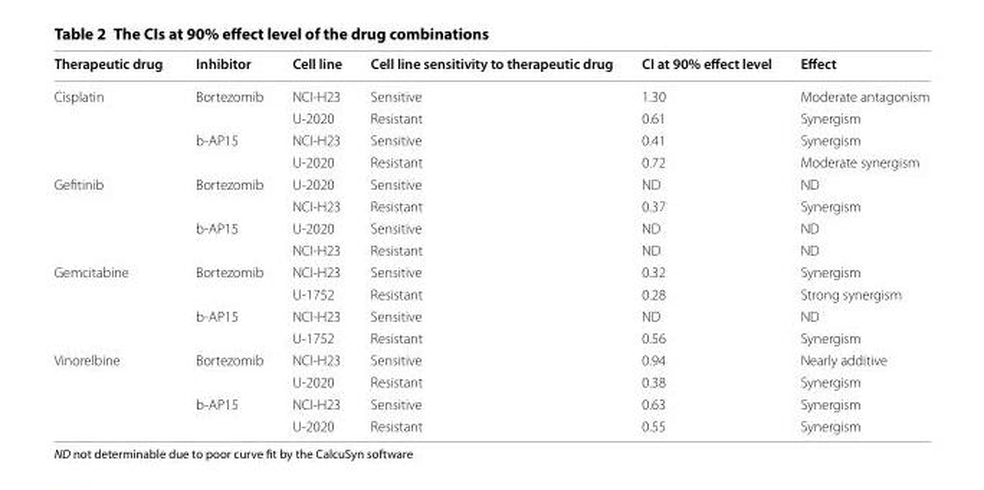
<table><thead><tr><td>Therapeutic drug</td><td>Inhibitor</td><td>Cell line</td><td>Cell line sensitivity to therapeutic drug</td><td>CI at 90% effect level</td><td>Effect</td></tr></thead><tbody><tr><td rowspan="4">Cisplatin</td><td>Bortezomib</td><td>NCI-H23</td><td>Sensitive</td><td>1.30</td><td>Moderate antagonism</td></tr><tr><td></td><td>U-2020</td><td>Resistant</td><td>0.61</td><td>Synergism</td></tr><tr><td>b-AP15</td><td>NCI-H23</td><td>Sensitive</td><td>0.41</td><td>Synergism</td></tr><tr><td></td><td>U-2020</td><td>Resistant</td><td>0.72</td><td>Moderate synergism</td></tr><tr><td rowspan="4">Gefitinib</td><td>Bortezomib</td><td>U-2020</td><td>Sensitive</td><td>ND</td><td>ND</td></tr><tr><td></td><td>NCI-H23</td><td>Resistant</td><td>0.37</td><td>Synergism</td></tr><tr><td>b-AP15</td><td>U-2020</td><td>Sensitive</td><td>ND</td><td>ND</td></tr><tr><td></td><td>NCI-H23</td><td>Resistant</td><td>ND</td><td>ND</td></tr><tr><td rowspan="4">Gemcitabine</td><td>Bortezomib</td><td>NCI-H23</td><td>Sensitive</td><td>0.32</td><td>Synergism</td></tr><tr><td></td><td>U-1752</td><td>Resistant</td><td>0.28</td><td>Strong synergism</td></tr><tr><td>b-AP15</td><td>NCI-H23</td><td>Sensitive</td><td>ND</td><td>ND</td></tr><tr><td></td><td>U-1752</td><td>Resistant</td><td>0.56</td><td>Synergism</td></tr><tr><td rowspan="4">Vinorelbine</td><td>Bortezomib</td><td>NCI-H23</td><td>Sensitive</td><td>0.94</td><td>Nearly additive</td></tr><tr><td></td><td>U-2020</td><td>Resistant</td><td>0.38</td><td>Synergism</td></tr><tr><td>b-AP15</td><td>NCI-H23</td><td>Sensitive</td><td>0.63</td><td>Synergism</td></tr><tr><td></td><td>U-2020</td><td>Resistant</td><td>0.55</td><td>Synergism</td></tr></tbody></table>